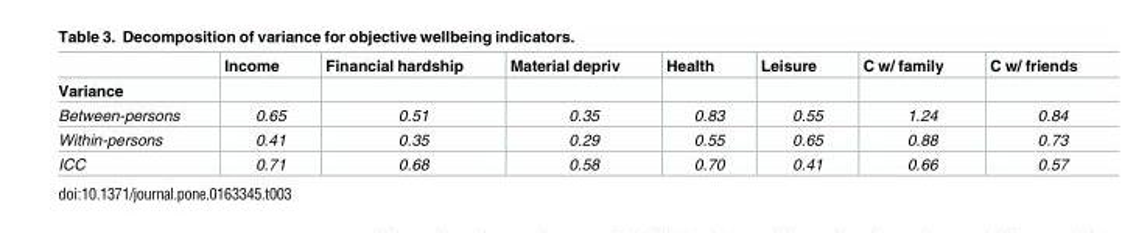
<table><thead><tr><td></td><td>Income</td><td>Financial hardship</td><td>Material depriv</td><td>Health</td><td>Leisure</td><td>C w/ family</td><td>C w/ friends</td></tr></thead><tbody><tr><td colspan="8">Variance</td></tr><tr><td>Between-persons</td><td>0.65</td><td>0.51</td><td>0.35</td><td>0.83</td><td>0.55</td><td>1.24</td><td>0.84</td></tr><tr><td>Within-persons</td><td>0.41</td><td>0.35</td><td>0.29</td><td>0.55</td><td>0.65</td><td>0.88</td><td>0.73</td></tr><tr><td>ICC</td><td>0.71</td><td>0.68</td><td>0.58</td><td>0.70</td><td>0.41</td><td>0.66</td><td>0.57</td></tr></tbody></table>